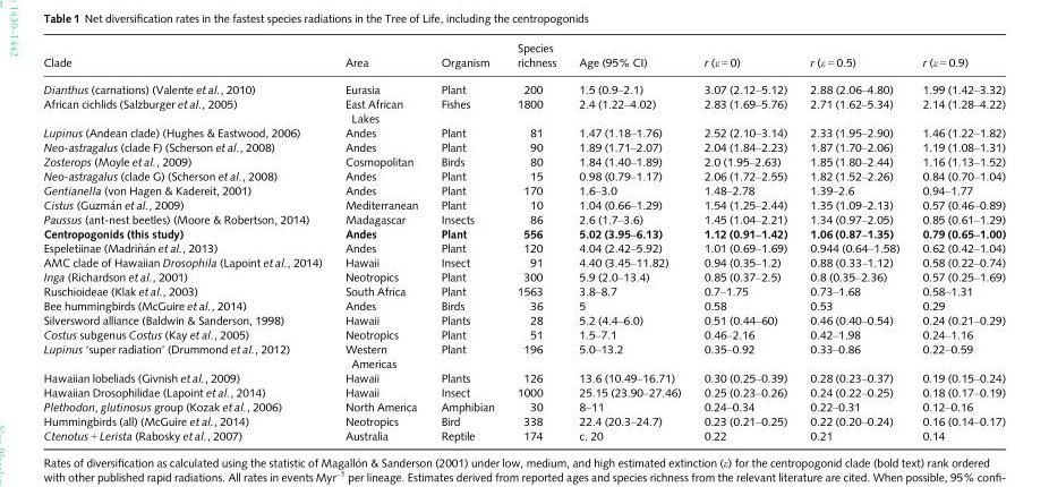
<table><thead><tr><td>Clade</td><td>Area</td><td>Organism</td><td>Species richness</td><td>Age (95% CI)</td><td>r (ε = 0)</td><td>r (ε = 0.5)</td><td>r (ε = 0.9)</td></tr></thead><tbody><tr><td>Dianthus (carnations) (Valente et al., 2010)</td><td>Eurasia</td><td>Plant</td><td>200</td><td>1.5 (0.9–2.1)</td><td>3.07 (2.12–5.12)</td><td>2.88 (2.06–4.80)</td><td>1.99 (1.42–3.32)</td></tr><tr><td>African cichlids (Salzburger et al., 2005)</td><td>East African Lakes</td><td>Fishes</td><td>1800</td><td>2.4 (1.22–4.02)</td><td>2.83 (1.69–5.76)</td><td>2.71 (1.62–5.34)</td><td>2.14 (1.28–4.22)</td></tr><tr><td>Lupinus (Andean clade) (Hughes &amp; Eastwood, 2006)</td><td>Andes</td><td>Plant</td><td>81</td><td>1.47 (1.18–1.76)</td><td>2.52 (2.10–3.14)</td><td>2.33 (1.95–2.90)</td><td>1.46 (1.22–1.82)</td></tr><tr><td>Neo-astragalus (clade F) (Scherson et al., 2008)</td><td>Andes</td><td>Plant</td><td>90</td><td>1.89 (1.71–2.07)</td><td>2.04 (1.84–2.23)</td><td>1.87 (1.70–2.06)</td><td>1.19 (1.08–1.31)</td></tr><tr><td>Zosterops (Moyle et al., 2009)</td><td>Cosmopolitan</td><td>Birds</td><td>80</td><td>1.84 (1.40–1.89)</td><td>2.0 (1.95–2.63)</td><td>1.85 (1.80–2.44)</td><td>1.16 (1.13–1.52)</td></tr><tr><td>Neo-astragalus (clade G) (Scherson et al., 2008)</td><td>Andes</td><td>Plant</td><td>15</td><td>0.98 (0.79–1.17)</td><td>2.06 (1.72–2.55)</td><td>1.82 (1.52–2.26)</td><td>0.84 (0.70–1.04)</td></tr><tr><td>Gentianella (von Hagen &amp; Kadereit, 2001)</td><td>Andes</td><td>Plant</td><td>170</td><td>1.6–3.0</td><td>1.48–2.78</td><td>1.39–2.6</td><td>0.94–1.77</td></tr><tr><td>Cistus (Guzm�an et al., 2009)</td><td>Mediterranean</td><td>Plant</td><td>10</td><td>1.04 (0.66–1.29)</td><td>1.54 (1.25–2.44)</td><td>1.35 (1.09–2.13)</td><td>0.57 (0.46–0.89)</td></tr><tr><td>Paussus (ant-nest beetles) (Moore &amp; Robertson, 2014)</td><td>Madagascar</td><td>Insects</td><td>86</td><td>2.6 (1.7–3.6)</td><td>1.45 (1.04–2.21)</td><td>1.34 (0.97–2.05)</td><td>0.85 (0.61–1.29)</td></tr><tr><td>Centropogonids (this study)</td><td>Andes</td><td>Plant</td><td>556</td><td>5.02 (3.95–6.13)</td><td>1.12 (0.91–1.42)</td><td>1.06 (0.87–1.35)</td><td>0.79 (0.65–1.00)</td></tr><tr><td>Espeletiinae (Madri~n�an et al., 2013)</td><td>Andes</td><td>Plant</td><td>120</td><td>4.04 (2.42–5.92)</td><td>1.01 (0.69–1.69)</td><td>0.944 (0.64–1.58)</td><td>0.62 (0.42–1.04)</td></tr><tr><td>AMC clade of Hawaiian Drosophila (Lapoint et al., 2014)</td><td>Hawaii</td><td>Insect</td><td>91</td><td>4.40 (3.45–11.82)</td><td>0.94 (0.35–1.2)</td><td>0.88 (0.33–1.12)</td><td>0.58 (0.22–0.74)</td></tr><tr><td>Inga (Richardson et al., 2001)</td><td>Neotropics</td><td>Plant</td><td>300</td><td>5.9 (2.0–13.4)</td><td>0.85 (0.37–2.5)</td><td>0.8 (0.35–2.36)</td><td>0.57 (0.25–1.69)</td></tr><tr><td>Ruschioideae (Klak et al., 2003)</td><td>South Africa</td><td>Plant</td><td>1563</td><td>3.8–8.7</td><td>0.7–1.75</td><td>0.73–1.68</td><td>0.58–1.31</td></tr><tr><td>Bee hummingbirds (McGuire et al., 2014)</td><td>Andes</td><td>Birds</td><td>36</td><td>5</td><td>0.58</td><td>0.53</td><td>0.29</td></tr><tr><td>Silversword alliance (Baldwin &amp; Sanderson, 1998)</td><td>Hawaii</td><td>Plants</td><td>28</td><td>5.2 (4.4–6.0)</td><td>0.51 (0.44–60)</td><td>0.46 (0.40–0.54)</td><td>0.24 (0.21–0.29)</td></tr><tr><td>Costus subgenus Costus (Kay et al., 2005)</td><td>Neotropics</td><td>Plant</td><td>51</td><td>1.5–7.1</td><td>0.46–2.16</td><td>0.42–1.98</td><td>0.24–1.16</td></tr><tr><td>Lupinus ‘super radiation’ (Drummond et al., 2012)</td><td>Western Americas</td><td>Plant</td><td>196</td><td>5.0–13.2</td><td>0.35–0.92</td><td>0.33–0.86</td><td>0.22–0.59</td></tr><tr><td>Hawaiian lobeliads (Givnish et al., 2009)</td><td>Hawaii</td><td>Plants</td><td>126</td><td>13.6 (10.49–16.71)</td><td>0.30 (0.25–0.39)</td><td>0.28 (0.23–0.37)</td><td>0.19 (0.15–0.24)</td></tr><tr><td>Hawaiian Drosophilidae (Lapoint et al., 2014)</td><td>Hawaii</td><td>Insect</td><td>1000</td><td>25.15 (23.90–27.46)</td><td>0.25 (0.23–0.26)</td><td>0.24 (0.22–0.25)</td><td>0.18 (0.17–0.19)</td></tr><tr><td>Plethodon, glutinosus group (Kozak et al., 2006)</td><td>North America</td><td>Amphibian</td><td>30</td><td>8–11</td><td>0.24–0.34</td><td>0.22–0.31</td><td>0.12–0.16</td></tr><tr><td>Hummingbirds (all) (McGuire et al., 2014)</td><td>Neotropics</td><td>Bird</td><td>338</td><td>22.4 (20.3–24.7)</td><td>0.23 (0.21–0.25)</td><td>0.22 (0.20–0.24)</td><td>0.16 (0.14–0.17)</td></tr><tr><td>Ctenotus + Lerista (Rabosky et al., 2007)</td><td>Australia</td><td>Reptile</td><td>174</td><td>c. 20</td><td>0.22</td><td>0.21</td><td>0.14</td></tr></tbody></table>